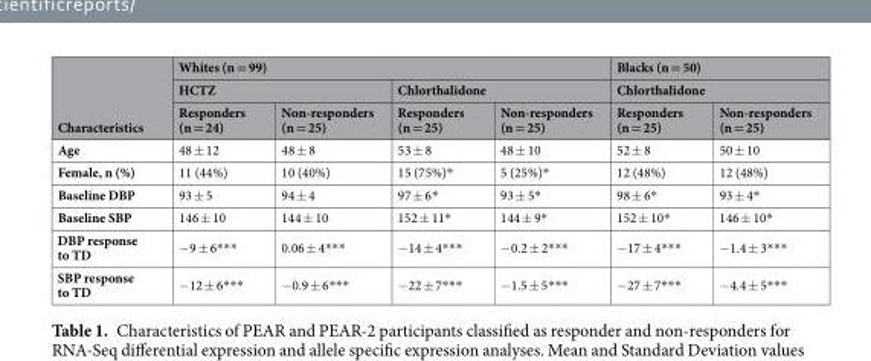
<table><thead><tr><td rowspan="3">Characteristics</td><td colspan="4">Whites (n = 99)</td><td rowspan="2" colspan="2">Blacks (n = 50) Chlorthalidone</td></tr><tr><td colspan="2">HCTZ</td><td colspan="2">Chlorthalidone</td></tr><tr><td>Responders (n = 24)</td><td>Non-responders (n = 25)</td><td>Responders (n = 25)</td><td>Non-responders (n = 25)</td><td>Responders (n = 25)</td><td>Non-responders (n = 25)</td></tr></thead><tbody><tr><td>Age</td><td>48 ± 12</td><td>48 ± 8</td><td>53 ± 8</td><td>48 ± 10</td><td>52 ± 8</td><td>50 ± 10</td></tr><tr><td>Female, n (%)</td><td>11 (44%)</td><td>10 (40%)</td><td>15 (75%)*</td><td>5 (25%)*</td><td>12 (48%)</td><td>12 (48%)</td></tr><tr><td>Baseline DBP</td><td>93 ± 5</td><td>94 ± 4</td><td>97 ± 6*</td><td>93 ± 5*</td><td>98 ± 6*</td><td>93 ± 4*</td></tr><tr><td>Baseline SBP</td><td>146 ± 10</td><td>144 ± 10</td><td>152 ± 11*</td><td>144 ± 9*</td><td>152 ± 10*</td><td>146 ± 10*</td></tr><tr><td>DBP response to TD</td><td>−9 ± 6***</td><td>0.06 ± 4***</td><td>−14 ± 4***</td><td>−0.2 ± 2***</td><td>−17 ± 4***</td><td>−1.4 ± 3***</td></tr><tr><td>SBP response to TD</td><td>−12 ± 6***</td><td>−0.9 ± 6***</td><td>−22 ± 7***</td><td>−1.5 ± 5***</td><td>−27 ± 7***</td><td>−4.4 ± 5***</td></tr></tbody></table>